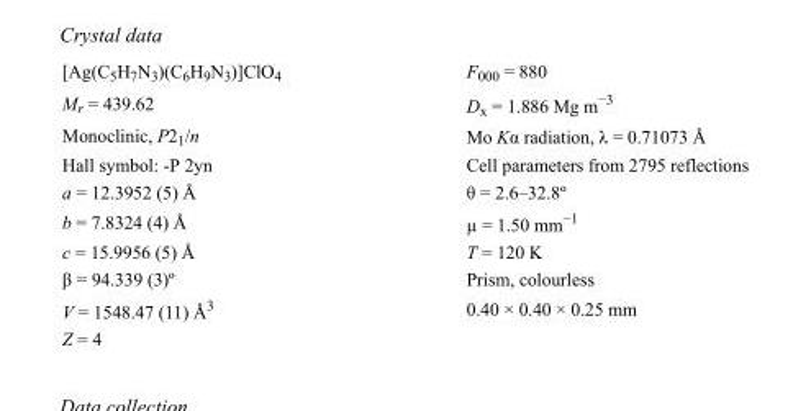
<table><tbody><tr><td>[Ag(C<sub>5</sub>H<sub>7</sub>N<sub>3</sub>)(C<sub>6</sub>H<sub>9</sub>N<sub>3</sub>)]ClO<sub>4</sub></td><td>F000 = 880</td></tr><tr><td>M<sub>r</sub> = 439.62</td><td>D<sub>x</sub> = 1.886 Mg m<sup>−3</sup></td></tr><tr><td>Monoclinic, P2<sub>1</sub>/n</td><td>Mo Kα radiation, λ = 0.71073 Å</td></tr><tr><td>Hall symbol: -P 2yn</td><td>Cell parameters from 2795 reflections</td></tr><tr><td>a = 12.3952 (5) Å</td><td>θ = 2.6–32.8º</td></tr><tr><td>b = 7.8324 (4) Å</td><td>µ = 1.50 mm<sup>−1</sup></td></tr><tr><td>c = 15.9956 (5) Å</td><td>T = 120 K</td></tr><tr><td>β = 94.339 (3)º</td><td>Prism, colourless</td></tr><tr><td>V = 1548.47 (11) Å<sup>3</sup></td><td>0.40 × 0.40 × 0.25 mm</td></tr><tr><td>Z = 4</td><td></td></tr></tbody></table>